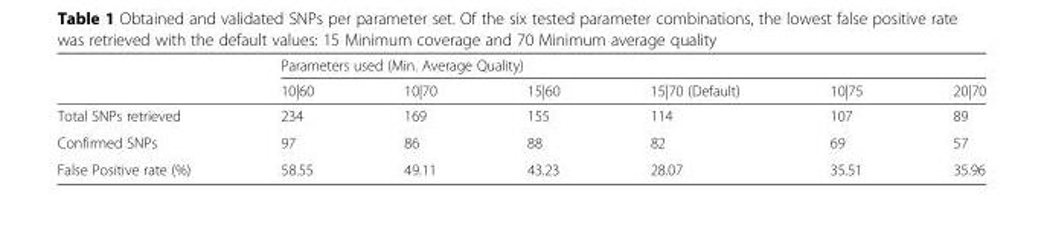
<table><thead><tr><td rowspan="2"></td><td colspan="6">Parameters used (Min. Average Quality)</td></tr><tr><td>10|60</td><td>10|70</td><td>15|60</td><td>15|70 (Default)</td><td>10|75</td><td>20|70</td></tr></thead><tbody><tr><td>Total SNPs retrieved</td><td>234</td><td>169</td><td>155</td><td>114</td><td>107</td><td>89</td></tr><tr><td>Confirmed SNPs</td><td>97</td><td>86</td><td>88</td><td>82</td><td>69</td><td>57</td></tr><tr><td>False Positive rate (%)</td><td>58.55</td><td>49.11</td><td>43.23</td><td>28.07</td><td>35.51</td><td>35.96</td></tr></tbody></table>